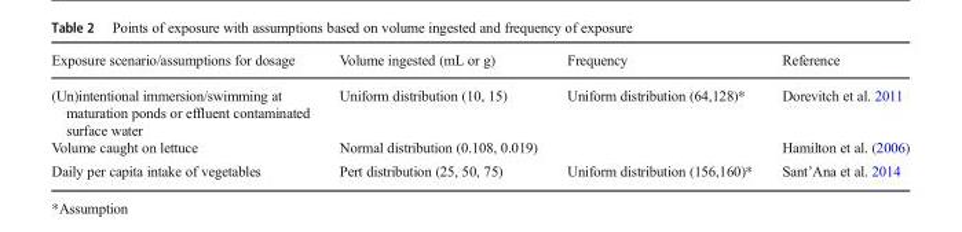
<table><thead><tr><td>Exposure scenario/assumptions for dosage</td><td>Volume ingested (mL or g)</td><td>Frequency</td><td>Reference</td></tr></thead><tbody><tr><td>(Un)intentional immersion/swimming at maturation ponds or effluent contaminated surface water</td><td>Uniform distribution (10, 15)</td><td>Uniform distribution (64,128)*</td><td>Dorevitch et al. 2011</td></tr><tr><td>Volume caught on lettuce</td><td>Normal distribution (0.108, 0.019)</td><td></td><td>Hamilton et al. (2006)</td></tr><tr><td>Daily per capita intake of vegetables</td><td>Pert distribution (25, 50, 75)</td><td>Uniform distribution (156,160)*</td><td>Sant’Ana et al. 2014</td></tr></tbody></table>